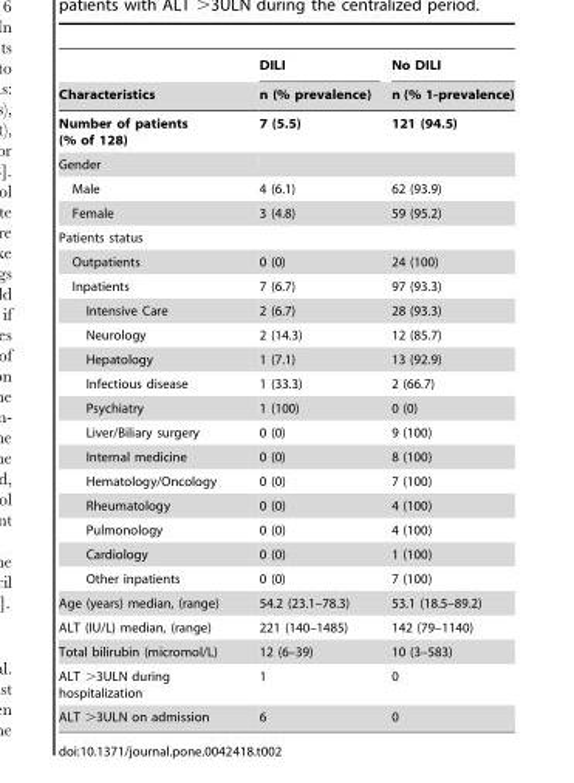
<table><thead><tr><td rowspan="2">Characteristics</td><td rowspan="2">DILI n (% prevalence)</td><td rowspan="2">No DILI n (% 1-prevalence)</td></tr><tr></tr></thead><tbody><tr><td>Number of patients (% of 128)</td><td>7 (5.5)</td><td>121 (94.5)</td></tr><tr><td colspan="3">Gender</td></tr><tr><td>Male</td><td>4 (6.1)</td><td>62 (93.9)</td></tr><tr><td>Female</td><td>3 (4.8)</td><td>59 (95.2)</td></tr><tr><td colspan="3">Patients status</td></tr><tr><td>Outpatients</td><td>0 (0)</td><td>24 (100)</td></tr><tr><td>Inpatients</td><td>7 (6.7)</td><td>97 (93.3)</td></tr><tr><td>Intensive Care</td><td>2 (6.7)</td><td>28 (93.3)</td></tr><tr><td>Neurology</td><td>2 (14.3)</td><td>12 (85.7)</td></tr><tr><td>Hepatology</td><td>1 (7.1)</td><td>13 (92.9)</td></tr><tr><td>Infectious disease</td><td>1 (33.3)</td><td>2 (66.7)</td></tr><tr><td>Psychiatry</td><td>1 (100)</td><td>0 (0)</td></tr><tr><td>Liver/Biliary surgery</td><td>0 (0)</td><td>9 (100)</td></tr><tr><td>Internal medicine</td><td>0 (0)</td><td>8 (100)</td></tr><tr><td>Hematology/Oncology</td><td>0 (0)</td><td>7 (100)</td></tr><tr><td>Rheumatology</td><td>0 (0)</td><td>4 (100)</td></tr><tr><td>Pulmonology</td><td>0 (0)</td><td>4 (100)</td></tr><tr><td>Cardiology</td><td>0 (0)</td><td>1 (100)</td></tr><tr><td>Other inpatients</td><td>0 (0)</td><td>7 (100)</td></tr><tr><td>Age (years) median, (range)</td><td>54.2 (23.1–78.3)</td><td>53.1 (18.5–89.2)</td></tr><tr><td>ALT (IU/L) median, (range)</td><td>221 (140–1485)</td><td>142 (79–1140)</td></tr><tr><td>Total bilirubin (micromol/L)</td><td>12 (6–39)</td><td>10 (3–583)</td></tr><tr><td>ALT &gt;3ULN during hospitalization</td><td>1</td><td>0</td></tr><tr><td>ALT &gt;3ULN on admission</td><td>6</td><td>0</td></tr></tbody></table>